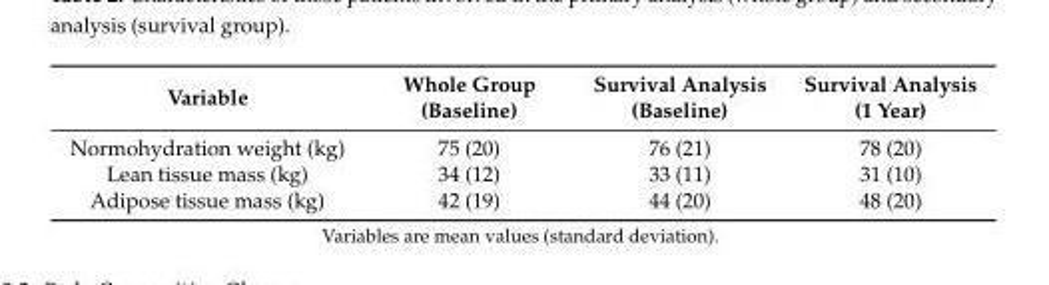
<table><thead><tr><td>Variable</td><td>Whole Group (Baseline)</td><td>Survival Analysis (Baseline)</td><td>Survival Analysis (1 Year)</td></tr></thead><tbody><tr><td>Normohydration weight (kg)</td><td>75 (20)</td><td>76 (21)</td><td>78 (20)</td></tr><tr><td>Lean tissue mass (kg)</td><td>34 (12)</td><td>33 (11)</td><td>31 (10)</td></tr><tr><td>Adipose tissue mass (kg)</td><td>42 (19)</td><td>44 (20)</td><td>48 (20)</td></tr></tbody></table>